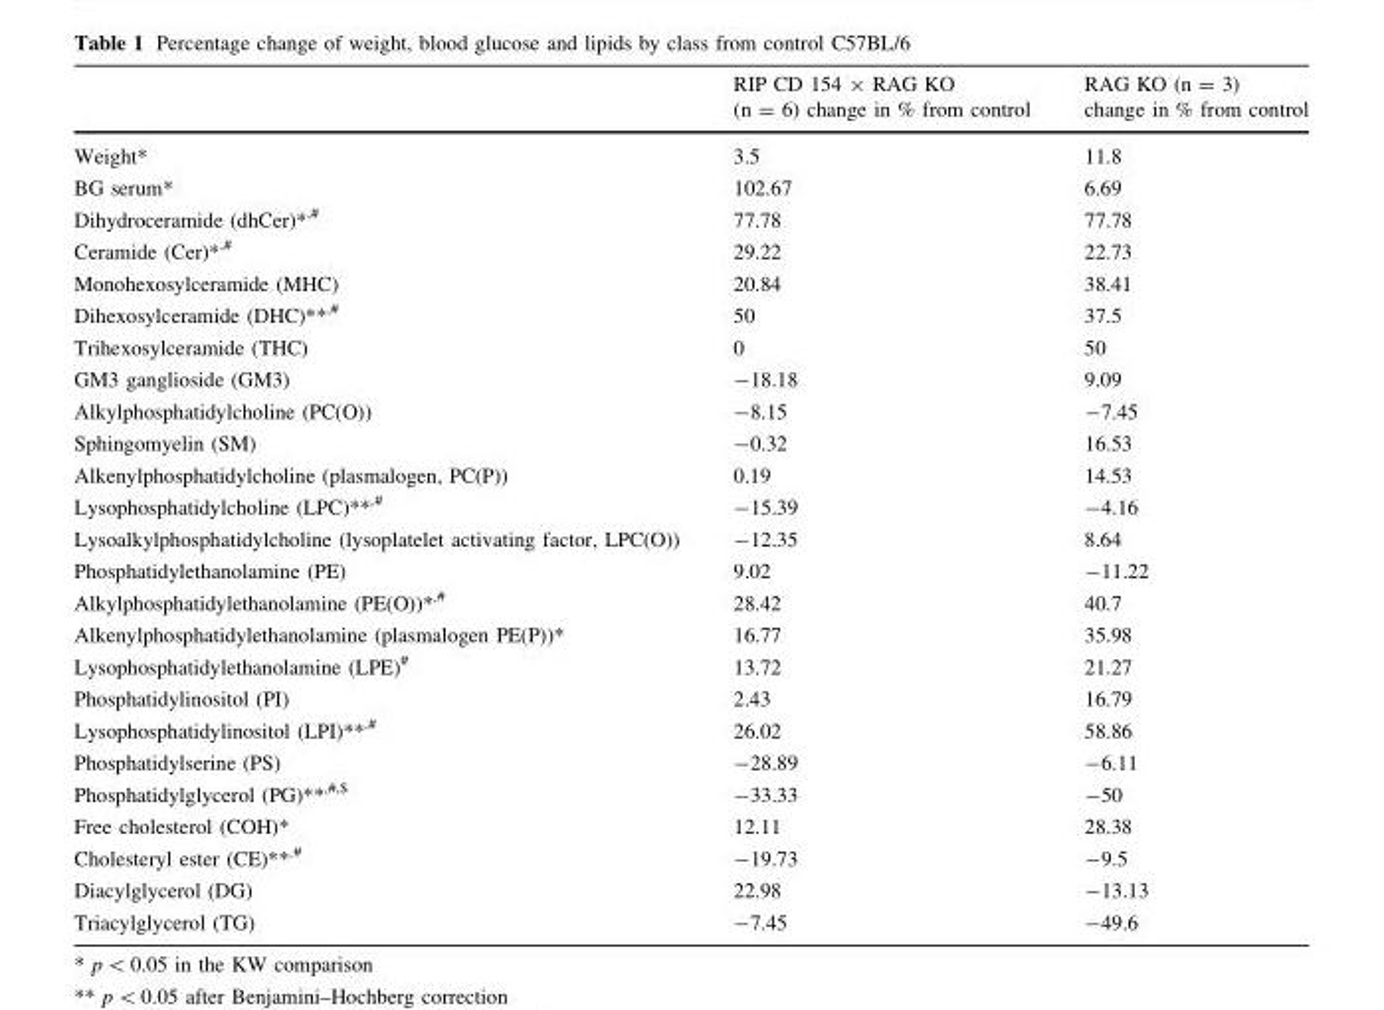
<table><thead><tr><td></td><td>RIP CD 154 × RAG KO (n = 6) change in % from control</td><td>RAG KO (n = 3) change in % from control</td></tr></thead><tbody><tr><td>Weight*</td><td>3.5</td><td>11.8</td></tr><tr><td>BG serum*</td><td>102.67</td><td>6.69</td></tr><tr><td>Dihydroceramide (dhCer)*<sup>,#</sup></td><td>77.78</td><td>77.78</td></tr><tr><td>Ceramide (Cer)*<sup>,#</sup></td><td>29.22</td><td>22.73</td></tr><tr><td>Monohexosylceramide (MHC)</td><td>20.84</td><td>38.41</td></tr><tr><td>Dihexosylceramide (DHC)**<sup>,#</sup></td><td>50</td><td>37.5</td></tr><tr><td>Trihexosylceramide (THC)</td><td>0</td><td>50</td></tr><tr><td>GM3 ganglioside (GM3)</td><td>-18.18</td><td>9.09</td></tr><tr><td>Alkylphosphatidylcholine (PC(O))</td><td>-8.15</td><td>-7.45</td></tr><tr><td>Sphingomyelin (SM)</td><td>-0.32</td><td>16.53</td></tr><tr><td>Alkenylphosphatidylcholine (plasmalogen, PC(P))</td><td>0.19</td><td>14.53</td></tr><tr><td>Lysophosphatidylcholine (LPC)**<sup>,#</sup></td><td>-15.39</td><td>-4.16</td></tr><tr><td>Lysoalkylphosphatidylcholine (lysoplatelet activating factor, LPC(O))</td><td>-12.35</td><td>8.64</td></tr><tr><td>Phosphatidylethanolamine (PE)</td><td>9.02</td><td>-11.22</td></tr><tr><td>Alkylphosphatidylethanolamine (PE(O))*<sup>,#</sup></td><td>28.42</td><td>40.7</td></tr><tr><td>Alkenylphosphatidylethanolamine (plasmalogen PE(P))*</td><td>16.77</td><td>35.98</td></tr><tr><td>Lysophosphatidylethanolamine (LPE)<sup>#</sup></td><td>13.72</td><td>21.27</td></tr><tr><td>Phosphatidylinositol (PI)</td><td>2.43</td><td>16.79</td></tr><tr><td>Lysophosphatidylinositol (LPI)**<sup>,#</sup></td><td>26.02</td><td>58.86</td></tr><tr><td>Phosphatidylserine (PS)</td><td>-28.89</td><td>-6.11</td></tr><tr><td>Phosphatidylglycerol (PG)**<sup>,#,$</sup></td><td>-33.33</td><td>-50</td></tr><tr><td>Free cholesterol (COH)*</td><td>12.11</td><td>28.38</td></tr><tr><td>Cholesteryl ester (CE)**<sup>,#</sup></td><td>-19.73</td><td>-9.5</td></tr><tr><td>Diacylglycerol (DG)</td><td>22.98</td><td>-13.13</td></tr><tr><td>Triacylglycerol (TG)</td><td>-7.45</td><td>-49.6</td></tr></tbody></table>